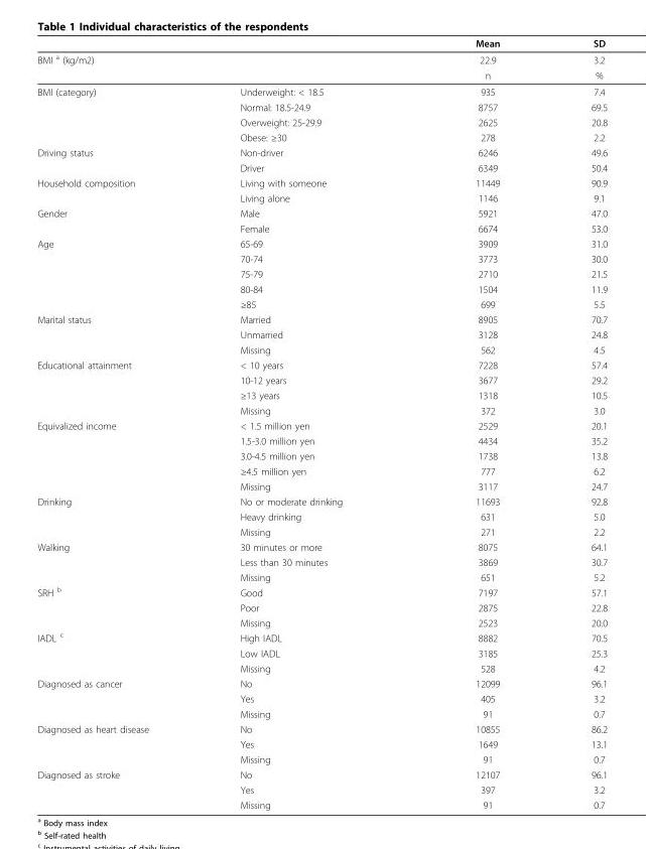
<table><thead><tr><td></td><td></td><td>Mean</td><td>SD</td></tr></thead><tbody><tr><td rowspan="2">BMI <sup>a</sup> (kg/m2)</td><td></td><td>22.9</td><td>3.2</td></tr><tr><td></td><td>n</td><td>%</td></tr><tr><td rowspan="4">BMI (category)</td><td>Underweight: &lt; 18.5</td><td>935</td><td>7.4</td></tr><tr><td>Normal: 18.5-24.9</td><td>8757</td><td>69.5</td></tr><tr><td>Overweight: 25-29.9</td><td>2625</td><td>20.8</td></tr><tr><td>Obese: ≥30</td><td>278</td><td>2.2</td></tr><tr><td rowspan="2">Driving status</td><td>Non-driver</td><td>6246</td><td>49.6</td></tr><tr><td>Driver</td><td>6349</td><td>50.4</td></tr><tr><td rowspan="2">Household composition</td><td>Living with someone</td><td>11449</td><td>90.9</td></tr><tr><td>Living alone</td><td>1146</td><td>9.1</td></tr><tr><td rowspan="2">Gender</td><td>Male</td><td>5921</td><td>47.0</td></tr><tr><td>Female</td><td>6674</td><td>53.0</td></tr><tr><td rowspan="5">Age</td><td>65-69</td><td>3909</td><td>31.0</td></tr><tr><td>70-74</td><td>3773</td><td>30.0</td></tr><tr><td>75-79</td><td>2710</td><td>21.5</td></tr><tr><td>80-84</td><td>1504</td><td>11.9</td></tr><tr><td>≥85</td><td>699</td><td>5.5</td></tr><tr><td rowspan="3">Marital status</td><td>Married</td><td>8905</td><td>70.7</td></tr><tr><td>Unmarried</td><td>3128</td><td>24.8</td></tr><tr><td>Missing</td><td>562</td><td>4.5</td></tr><tr><td rowspan="4">Educational attainment</td><td>&lt; 10 years</td><td>7228</td><td>57.4</td></tr><tr><td>10-12 years</td><td>3677</td><td>29.2</td></tr><tr><td>≥13 years</td><td>1318</td><td>10.5</td></tr><tr><td>Missing</td><td>372</td><td>3.0</td></tr><tr><td rowspan="5">Equivalized income</td><td>&lt; 1.5 million yen</td><td>2529</td><td>20.1</td></tr><tr><td>1.5-3.0 million yen</td><td>4434</td><td>35.2</td></tr><tr><td>3.0-4.5 million yen</td><td>1738</td><td>13.8</td></tr><tr><td>≥4.5 million yen</td><td>777</td><td>6.2</td></tr><tr><td>Missing</td><td>3117</td><td>24.7</td></tr><tr><td rowspan="3">Drinking</td><td>No or moderate drinking</td><td>11693</td><td>92.8</td></tr><tr><td>Heavy drinking</td><td>631</td><td>5.0</td></tr><tr><td>Missing</td><td>271</td><td>2.2</td></tr><tr><td rowspan="3">Walking</td><td>30 minutes or more</td><td>8075</td><td>64.1</td></tr><tr><td>Less than 30 minutes</td><td>3869</td><td>30.7</td></tr><tr><td>Missing</td><td>651</td><td>5.2</td></tr><tr><td rowspan="3">SRH <sup>b</sup></td><td>Good</td><td>7197</td><td>57.1</td></tr><tr><td>Poor</td><td>2875</td><td>22.8</td></tr><tr><td>Missing</td><td>2523</td><td>20.0</td></tr><tr><td rowspan="3">IADL <sup>c</sup></td><td>High IADL</td><td>8882</td><td>70.5</td></tr><tr><td>Low IADL</td><td>3185</td><td>25.3</td></tr><tr><td>Missing</td><td>528</td><td>4.2</td></tr><tr><td rowspan="3">Diagnosed as cancer</td><td>No</td><td>12099</td><td>96.1</td></tr><tr><td>Yes</td><td>405</td><td>3.2</td></tr><tr><td>Missing</td><td>91</td><td>0.7</td></tr><tr><td rowspan="3">Diagnosed as heart disease</td><td>No</td><td>10855</td><td>86.2</td></tr><tr><td>Yes</td><td>1649</td><td>13.1</td></tr><tr><td>Missing</td><td>91</td><td>0.7</td></tr><tr><td rowspan="3">Diagnosed as stroke</td><td>No</td><td>12107</td><td>96.1</td></tr><tr><td>Yes</td><td>397</td><td>3.2</td></tr><tr><td>Missing</td><td>91</td><td>0.7</td></tr></tbody></table>